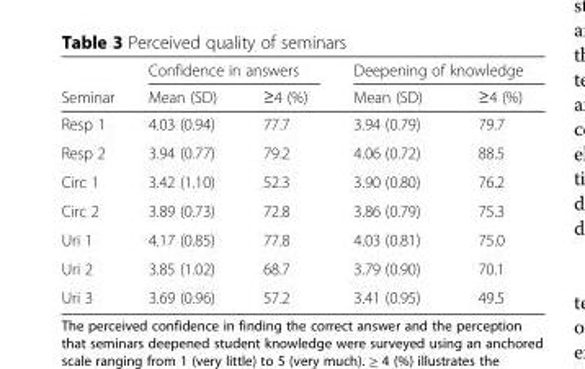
<table><thead><tr><td rowspan="2">Seminar</td><td colspan="2">Confidence in answers</td><td colspan="2">Deepening of knowledge</td></tr><tr><td>Mean (SD)</td><td>≥4 (%)</td><td>Mean (SD)</td><td>≥4 (%)</td></tr></thead><tbody><tr><td>Resp 1</td><td>4.03 (0.94)</td><td>77.7</td><td>3.94 (0.79)</td><td>79.7</td></tr><tr><td>Resp 2</td><td>3.94 (0.77)</td><td>79.2</td><td>4.06 (0.72)</td><td>88.5</td></tr><tr><td>Circ 1</td><td>3.42 (1.10)</td><td>52.3</td><td>3.90 (0.80)</td><td>76.2</td></tr><tr><td>Circ 2</td><td>3.89 (0.73)</td><td>72.8</td><td>3.86 (0.79)</td><td>75.3</td></tr><tr><td>Uri 1</td><td>4.17 (0.85)</td><td>77.8</td><td>4.03 (0.81)</td><td>75.0</td></tr><tr><td>Uri 2</td><td>3.85 (1.02)</td><td>68.7</td><td>3.79 (0.90)</td><td>70.1</td></tr><tr><td>Uri 3</td><td>3.69 (0.96)</td><td>57.2</td><td>3.41 (0.95)</td><td>49.5</td></tr></tbody></table>